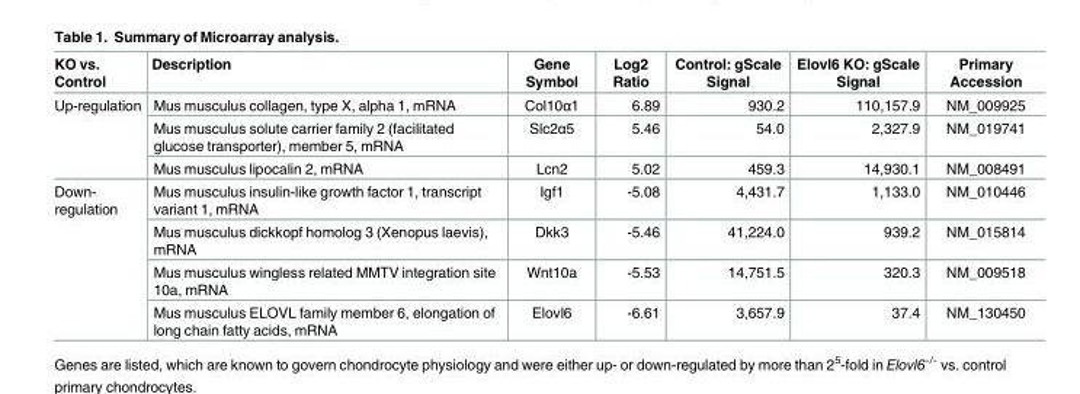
<table><thead><tr><td>KO vs. Control</td><td>Description</td><td>Gene Symbol</td><td>Log2 Ratio</td><td>Control: gScale Signal</td><td>Elovl6 KO: gScale Signal</td><td>Primary Accession</td></tr></thead><tbody><tr><td rowspan="3">Up-regulation</td><td>Mus musculus collagen, type X, alpha 1, mRNA</td><td>Col10α1</td><td>6.89</td><td>930.2</td><td>110,157.9</td><td>NM_009925</td></tr><tr><td>Mus musculus solute carrier family 2 (facilitated glucose transporter), member 5, mRNA</td><td>Slc2α5</td><td>5.46</td><td>54.0</td><td>2,327.9</td><td>NM_019741</td></tr><tr><td>Mus musculus lipocalin 2, mRNA</td><td>Lcn2</td><td>5.02</td><td>459.3</td><td>14,930.1</td><td>NM_008491</td></tr><tr><td rowspan="4">Down- regulation</td><td>Mus musculus insulin-like growth factor 1, transcript variant 1, mRNA</td><td>Igf1</td><td>-5.08</td><td>4,431.7</td><td>1,133.0</td><td>NM_010446</td></tr><tr><td>Mus musculus dickkopf homolog 3 (Xenopus laevis), mRNA</td><td>Dkk3</td><td>-5.46</td><td>41,224.0</td><td>939.2</td><td>NM_015814</td></tr><tr><td>Mus musculus wingless related MMTV integration site 10a, mRNA</td><td>Wnt10a</td><td>-5.53</td><td>14,751.5</td><td>320.3</td><td>NM_009518</td></tr><tr><td>Mus musculus ELOVL family member 6, elongation of long chain fatty acids, mRNA</td><td>Elovl6</td><td>-6.61</td><td>3,657.9</td><td>37.4</td><td>NM_130450</td></tr></tbody></table>